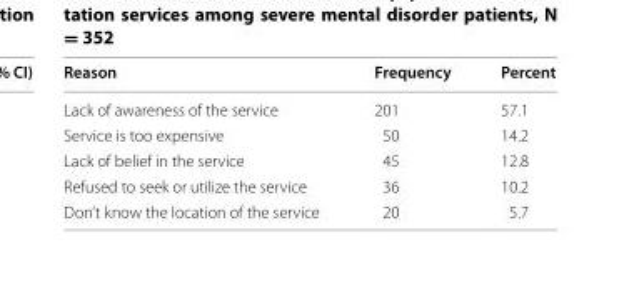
<table><thead><tr><td>Reason</td><td>Frequency</td><td>Percent</td></tr></thead><tbody><tr><td>Lack of awareness of the service</td><td>201</td><td>57.1</td></tr><tr><td>Service is too expensive</td><td>50</td><td>14.2</td></tr><tr><td>Lack of belief in the service</td><td>45</td><td>12.8</td></tr><tr><td>Refused to seek or utilize the service</td><td>36</td><td>10.2</td></tr><tr><td>Don’t know the location of the service</td><td>20</td><td>5.7</td></tr></tbody></table>